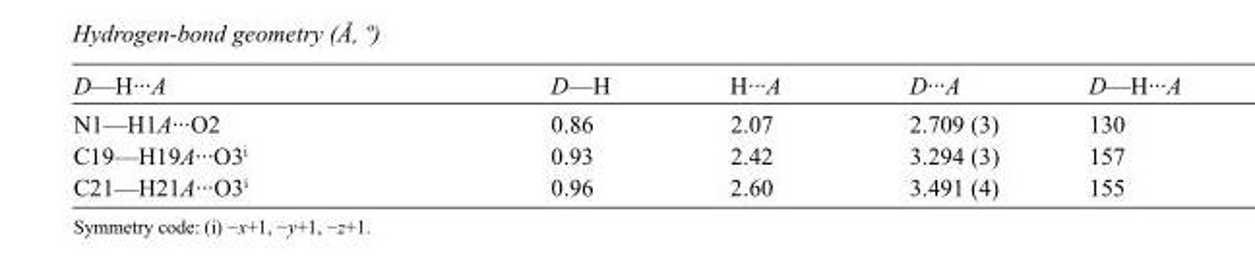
<table><tbody><tr><td>D—H···A</td><td>D—H</td><td>H···A</td><td>D···A</td><td>D—H···A</td></tr><tr><td>N1—H1A···O2</td><td>0.86</td><td>2.07</td><td>2.709 (3)</td><td>130</td></tr><tr><td>C19—H19A···O3<sup>i</sup></td><td>0.93</td><td>2.42</td><td>3.294 (3)</td><td>157</td></tr><tr><td>C21—H21A···O3<sup>i</sup></td><td>0.96</td><td>2.60</td><td>3.491 (4)</td><td>155</td></tr></tbody></table>